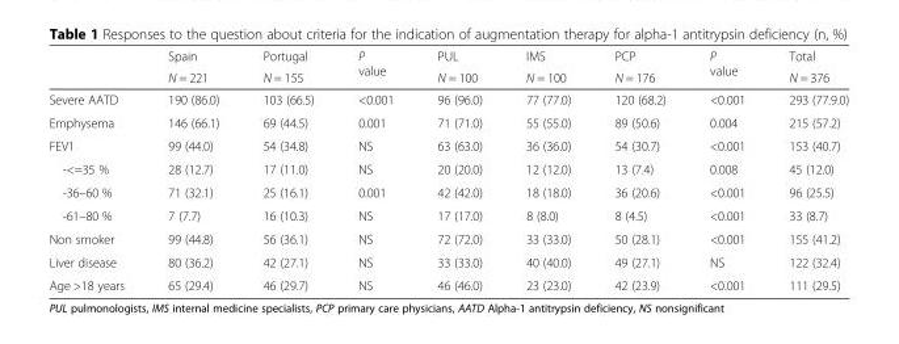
<table><thead><tr><td rowspan="2"></td><td rowspan="2">Spain N = 221</td><td rowspan="2">Portugal N = 155</td><td rowspan="2">P value</td><td rowspan="2">PUL N = 100</td><td rowspan="2">IMS N = 100</td><td rowspan="2">PCP N = 176</td><td rowspan="2">P value</td><td rowspan="2">Total N = 376</td></tr><tr></tr></thead><tbody><tr><td>Severe AATD</td><td>190 (86.0)</td><td>103 (66.5)</td><td>&lt;0.001</td><td>96 (96.0)</td><td>77 (77.0)</td><td>120 (68.2)</td><td>&lt;0.001</td><td>293 (77.9.0)</td></tr><tr><td>Emphysema</td><td>146 (66.1)</td><td>69 (44.5)</td><td>0.001</td><td>71 (71.0)</td><td>55 (55.0)</td><td>89 (50.6)</td><td>0.004</td><td>215 (57.2)</td></tr><tr><td>FEV1</td><td>99 (44.0)</td><td>54 (34.8)</td><td>NS</td><td>63 (63.0)</td><td>36 (36.0)</td><td>54 (30.7)</td><td>&lt;0.001</td><td>153 (40.7)</td></tr><tr><td>-&lt;=35 %</td><td>28 (12.7)</td><td>17 (11.0)</td><td>NS</td><td>20 (20.0)</td><td>12 (12.0)</td><td>13 (7.4)</td><td>0.008</td><td>45 (12.0)</td></tr><tr><td>-36–60 %</td><td>71 (32.1)</td><td>25 (16.1)</td><td>0.001</td><td>42 (42.0)</td><td>18 (18.0)</td><td>36 (20.6)</td><td>&lt;0.001</td><td>96 (25.5)</td></tr><tr><td>-61–80 %</td><td>7 (7.7)</td><td>16 (10.3)</td><td>NS</td><td>17 (17.0)</td><td>8 (8.0)</td><td>8 (4.5)</td><td>&lt;0.001</td><td>33 (8.7)</td></tr><tr><td>Non smoker</td><td>99 (44.8)</td><td>56 (36.1)</td><td>NS</td><td>72 (72.0)</td><td>33 (33.0)</td><td>50 (28.1)</td><td>&lt;0.001</td><td>155 (41.2)</td></tr><tr><td>Liver disease</td><td>80 (36.2)</td><td>42 (27.1)</td><td>NS</td><td>33 (33.0)</td><td>40 (40.0)</td><td>49 (27.1)</td><td>NS</td><td>122 (32.4)</td></tr><tr><td>Age &gt;18 years</td><td>65 (29.4)</td><td>46 (29.7)</td><td>NS</td><td>46 (46.0)</td><td>23 (23.0)</td><td>42 (23.9)</td><td>&lt;0.001</td><td>111 (29.5)</td></tr></tbody></table>